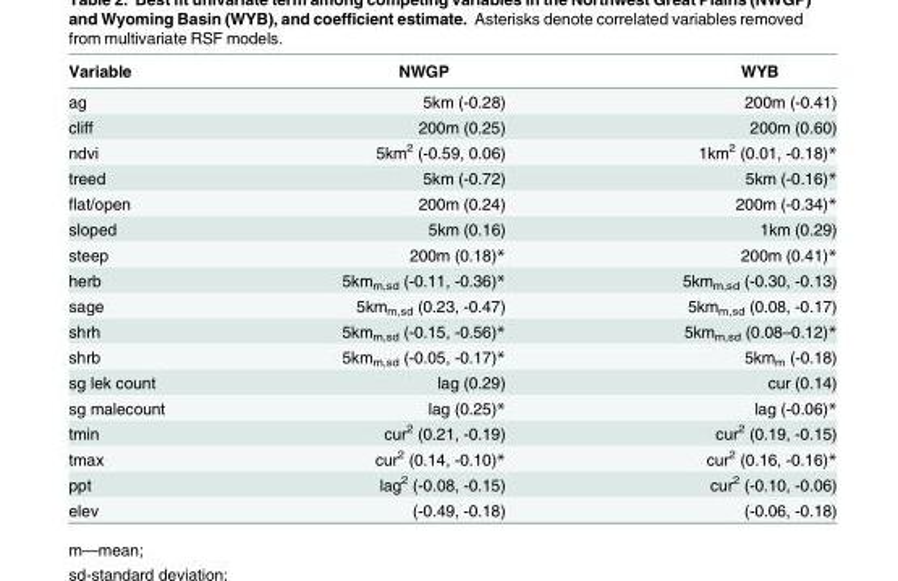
<table><thead><tr><td>Variable</td><td>NWGP</td><td>WYB</td></tr></thead><tbody><tr><td>ag</td><td>5km (-0.28)</td><td>200m (-0.41)</td></tr><tr><td>cliff</td><td>200m (0.25)</td><td>200m (0.60)</td></tr><tr><td>ndvi</td><td>5km<sup>2</sup> (-0.59, 0.06)</td><td>1km<sup>2</sup> (0.01, -0.18)*</td></tr><tr><td>treed</td><td>5km (-0.72)</td><td>5km (-0.16)*</td></tr><tr><td>flat/open</td><td>200m (0.24)</td><td>200m (-0.34)*</td></tr><tr><td>sloped</td><td>5km (0.16)</td><td>1km (0.29)</td></tr><tr><td>steep</td><td>200m (0.18)*</td><td>200m (0.41)*</td></tr><tr><td>herb</td><td>5km<sub>m,sd</sub> (-0.11, -0.36)*</td><td>5km<sub>m,sd</sub> (-0.30, -0.13)</td></tr><tr><td>sage</td><td>5km<sub>m,sd</sub> (0.23, -0.47)</td><td>5km<sub>m,sd</sub> (0.08, -0.17)</td></tr><tr><td>shrh</td><td>5km<sub>m,sd</sub> (-0.15, -0.56)*</td><td>5km<sub>m,sd</sub> (0.08–0.12)*</td></tr><tr><td>shrb</td><td>5km<sub>m,sd</sub> (-0.05, -0.17)*</td><td>5km<sub>m</sub> (-0.18)</td></tr><tr><td>sg lek count</td><td>lag (0.29)</td><td>cur (0.14)</td></tr><tr><td>sg malecount</td><td>lag (0.25)*</td><td>lag (-0.06)*</td></tr><tr><td>tmin</td><td>cur<sup>2</sup> (0.21, -0.19)</td><td>cur<sup>2</sup> (0.19, -0.15)</td></tr><tr><td>tmax</td><td>cur<sup>2</sup> (0.14, -0.10)*</td><td>cur<sup>2</sup> (0.16, -0.16)*</td></tr><tr><td>ppt</td><td>lag<sup>2</sup> (-0.08, -0.15)</td><td>cur<sup>2</sup> (-0.10, -0.06)</td></tr><tr><td>elev</td><td>(-0.49, -0.18)</td><td>(-0.06, -0.18)</td></tr></tbody></table>